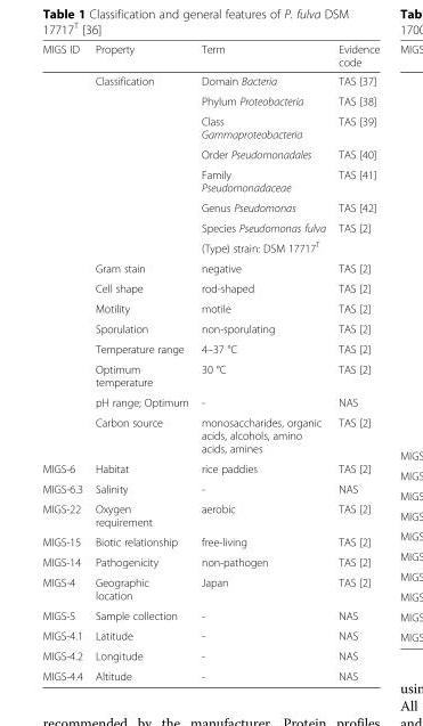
<table><thead><tr><td>MIGS ID</td><td>Property</td><td>Term</td><td>Evidence code</td></tr></thead><tbody><tr><td rowspan="16"></td><td rowspan="8">Classification</td><td>Domain Bacteria</td><td>TAS [37]</td></tr><tr><td>Phylum Proteobacteria</td><td>TAS [38]</td></tr><tr><td>Class Gammaproteobacteria</td><td>TAS [39]</td></tr><tr><td>Order Pseudomonadales</td><td>TAS [40]</td></tr><tr><td>Family Pseudomonadaceae</td><td>TAS [41]</td></tr><tr><td>Genus Pseudomonas</td><td>TAS [42]</td></tr><tr><td>Species Pseudomonas fulva</td><td>TAS [2]</td></tr><tr><td>(Type) strain: DSM 17717<sup>T</sup></td><td></td></tr><tr><td>Gram stain</td><td>negative</td><td>TAS [2]</td></tr><tr><td>Cell shape</td><td>rod-shaped</td><td>TAS [2]</td></tr><tr><td>Motility</td><td>motile</td><td>TAS [2]</td></tr><tr><td>Sporulation</td><td>non-sporulating</td><td>TAS [2]</td></tr><tr><td>Temperature range</td><td>4–37 °C</td><td>TAS [2]</td></tr><tr><td>Optimum temperature</td><td>30 °C</td><td>TAS [2]</td></tr><tr><td>pH range; Optimum</td><td>-</td><td>NAS</td></tr><tr><td>Carbon source</td><td>monosaccharides, organic acids, alcohols, amino acids, amines</td><td>TAS [2]</td></tr><tr><td>MIGS-6</td><td>Habitat</td><td>rice paddies</td><td>TAS [2]</td></tr><tr><td>MIGS-6.3</td><td>Salinity</td><td>-</td><td>NAS</td></tr><tr><td>MIGS-22</td><td>Oxygen requirement</td><td>aerobic</td><td>TAS [2]</td></tr><tr><td>MIGS-15</td><td>Biotic relationship</td><td>free-living</td><td>TAS [2]</td></tr><tr><td>MIGS-14</td><td>Pathogenicity</td><td>non-pathogen</td><td>TAS [2]</td></tr><tr><td>MIGS-4</td><td>Geographic location</td><td>Japan</td><td>TAS [2]</td></tr><tr><td>MIGS-5</td><td>Sample collection</td><td>-</td><td>NAS</td></tr><tr><td>MIGS-4.1</td><td>Latitude</td><td>-</td><td>NAS</td></tr><tr><td>MIGS-4.2</td><td>Longitude</td><td>-</td><td>NAS</td></tr><tr><td>MIGS-4.4</td><td>Altitude</td><td>-</td><td>NAS</td></tr></tbody></table>